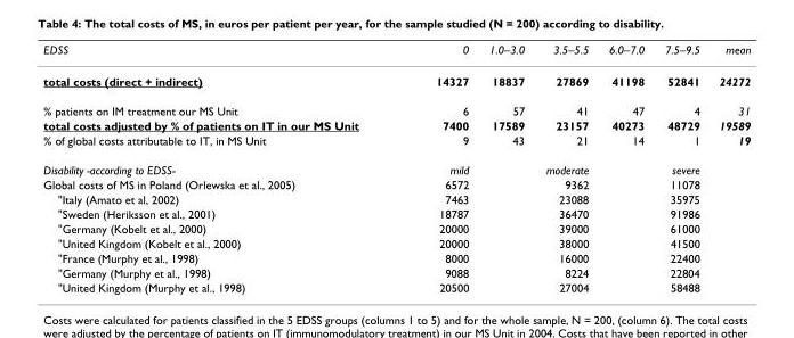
<table><thead><tr><td>EDSS</td><td>0</td><td>1.0–3.0</td><td>3.5–5.5</td><td>6.0–7.0</td><td>7.5–9.5</td><td>mean</td></tr></thead><tbody><tr><td>total costs (direct + indirect)</td><td>14327</td><td>18837</td><td>27869</td><td>41198</td><td>52841</td><td>24272</td></tr><tr><td>% patients on IM treatment our MS Unit</td><td>6</td><td>57</td><td>41</td><td>47</td><td>4</td><td>31</td></tr><tr><td>total costs adjusted by % of patients on IT in our MS Unit</td><td>7400</td><td>17589</td><td>23157</td><td>40273</td><td>48729</td><td>19589</td></tr><tr><td>% of global costs attributable to IT, in MS Unit</td><td>9</td><td>43</td><td>21</td><td>14</td><td>1</td><td>19</td></tr><tr><td>Disability -according to EDSS-</td><td>mild</td><td></td><td>moderate</td><td></td><td>severe</td><td></td></tr><tr><td>Global costs of MS in Poland (Orlewska et al., 2005)</td><td>6572</td><td></td><td>9362</td><td></td><td>11078</td><td></td></tr><tr><td>&quot;Italy (Amato et al, 2002)</td><td>7463</td><td></td><td>23088</td><td></td><td>35975</td><td></td></tr><tr><td>&quot;Sweden (Heriksson et al., 2001)</td><td>18787</td><td></td><td>36470</td><td></td><td>91986</td><td></td></tr><tr><td>&quot;Germany (Kobelt et al., 2000)</td><td>20000</td><td></td><td>39000</td><td></td><td>61000</td><td></td></tr><tr><td>&quot;United Kingdom (Kobelt et al., 2000)</td><td>20000</td><td></td><td>38000</td><td></td><td>41500</td><td></td></tr><tr><td>&quot;France (Murphy et al., 1998)</td><td>8000</td><td></td><td>16000</td><td></td><td>22400</td><td></td></tr><tr><td>&quot;Germany (Murphy et al., 1998)</td><td>9088</td><td></td><td>8224</td><td></td><td>22804</td><td></td></tr><tr><td>&quot;United Kingdom (Murphy et al., 1998)</td><td>20500</td><td></td><td>27004</td><td></td><td>58488</td><td></td></tr></tbody></table>